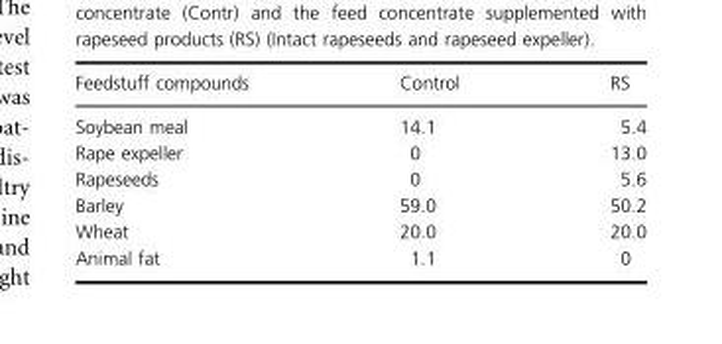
<table><thead><tr><td>Feedstuff compounds</td><td>Control</td><td>RS</td></tr></thead><tbody><tr><td>Soybean meal</td><td>14.1</td><td>5.4</td></tr><tr><td>Rape expeller</td><td>0</td><td>13.0</td></tr><tr><td>Rapeseeds</td><td>0</td><td>5.6</td></tr><tr><td>Barley</td><td>59.0</td><td>50.2</td></tr><tr><td>Wheat</td><td>20.0</td><td>20.0</td></tr><tr><td>Animal fat</td><td>1.1</td><td>0</td></tr></tbody></table>